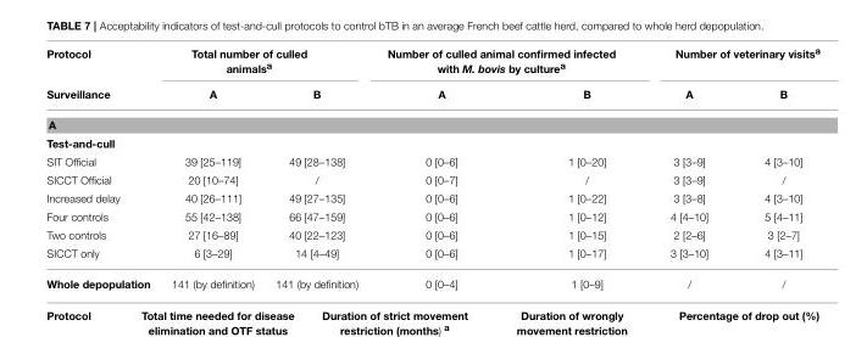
<table><thead><tr><td rowspan="2">Protocol Surveillance</td><td colspan="2">Total number of culled animals<sup>a</sup></td><td colspan="2">Number of culled animal confirmed infected with M. bovis by culture<sup>a</sup></td><td colspan="2">Number of veterinary visits<sup>a</sup></td></tr><tr><td>A</td><td>B</td><td>A</td><td>B</td><td>A</td><td>B</td></tr></thead><tbody><tr><td colspan="7">A</td></tr><tr><td colspan="7">Test-and-cull</td></tr><tr><td>SIT Official</td><td>39 [25–119]</td><td>49 [28–138]</td><td>0 [0–6]</td><td>1 [0–20]</td><td>3 [3–9]</td><td>4 [3–10]</td></tr><tr><td>SICCT Official</td><td>20 [10–74]</td><td>/</td><td>0 [0–7]</td><td>/</td><td>3 [3–9]</td><td>/</td></tr><tr><td>Increased delay</td><td>40 [26–111]</td><td>49 [27–135]</td><td>0 [0–6]</td><td>1 [0–22]</td><td>3 [3–8]</td><td>4 [3–10]</td></tr><tr><td>Four controls</td><td>55 [42–138]</td><td>66 [47–159]</td><td>0 [0–6]</td><td>1 [0–12]</td><td>4 [4–10]</td><td>5 [4–11]</td></tr><tr><td>Two controls</td><td>27 [16–89]</td><td>40 [22–123]</td><td>0 [0–6]</td><td>1 [0–15]</td><td>2 [2–6]</td><td>3 [2–7]</td></tr><tr><td>SICCT only</td><td>6 [3–29]</td><td>14 [4–49]</td><td>0 [0–6]</td><td>1 [0–17]</td><td>3 [3–10]</td><td>4 [3–11]</td></tr><tr><td>Whole depopulation</td><td>141 (by definition)</td><td>141 (by definition)</td><td>0 [0–4]</td><td>1 [0–9]</td><td>/</td><td>/</td></tr></tbody></table>